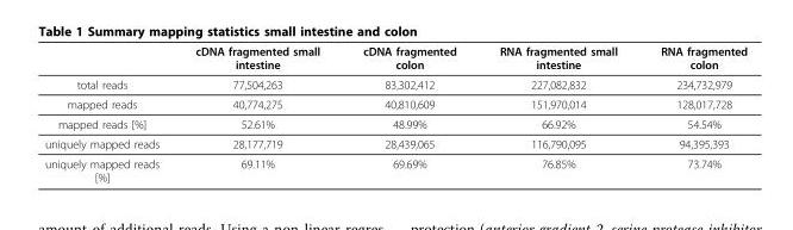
<table><thead><tr><td></td><td>cDNA fragmented small intestine</td><td>cDNA fragmented colon</td><td>RNA fragmented small intestine</td><td>RNA fragmented colon</td></tr></thead><tbody><tr><td>total reads</td><td>77,504,263</td><td>83,302,412</td><td>227,082,832</td><td>234,732,979</td></tr><tr><td>mapped reads</td><td>40,774,275</td><td>40,810,609</td><td>151,970,014</td><td>128,017,728</td></tr><tr><td>mapped reads [%]</td><td>52.61%</td><td>48.99%</td><td>66.92%</td><td>54.54%</td></tr><tr><td>uniquely mapped reads</td><td>28,177,719</td><td>28,439,065</td><td>116,790,095</td><td>94,395,393</td></tr><tr><td>uniquely mapped reads [%]</td><td>69.11%</td><td>69.69%</td><td>76.85%</td><td>73.74%</td></tr></tbody></table>